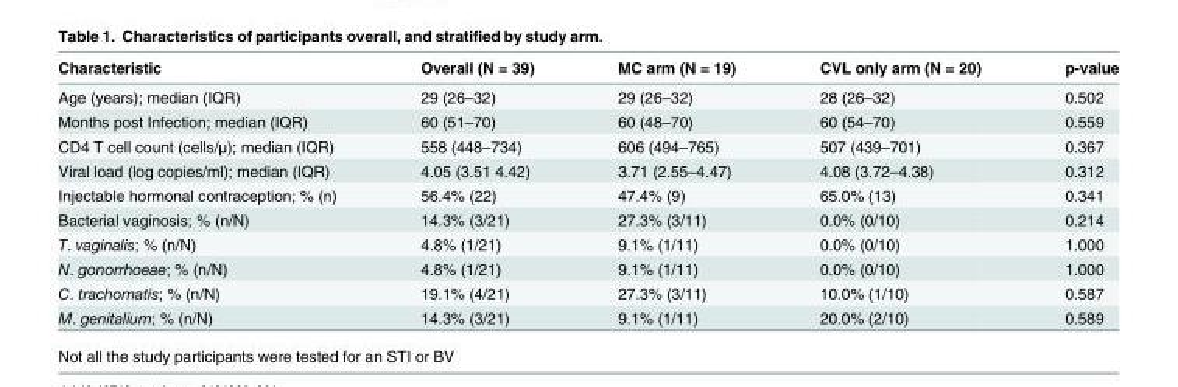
<table><thead><tr><td>Characteristic</td><td>Overall (N = 39)</td><td>MC arm (N = 19)</td><td>CVL only arm (N = 20)</td><td>p-value</td></tr></thead><tbody><tr><td>Age (years); median (IQR)</td><td>29 (26–32)</td><td>29 (26–32)</td><td>28 (26–32)</td><td>0.502</td></tr><tr><td>Months post Infection; median (IQR)</td><td>60 (51–70)</td><td>60 (48–70)</td><td>60 (54–70)</td><td>0.559</td></tr><tr><td>CD4 T cell count (cells/μ); median (IQR)</td><td>558 (448–734)</td><td>606 (494–765)</td><td>507 (439–701)</td><td>0.367</td></tr><tr><td>Viral load (log copies/ml); median (IQR)</td><td>4.05 (3.51 4.42)</td><td>3.71 (2.55–4.47)</td><td>4.08 (3.72–4.38)</td><td>0.312</td></tr><tr><td>Injectable hormonal contraception; % (n)</td><td>56.4% (22)</td><td>47.4% (9)</td><td>65.0% (13)</td><td>0.341</td></tr><tr><td>Bacterial vaginosis; % (n/N)</td><td>14.3% (3/21)</td><td>27.3% (3/11)</td><td>0.0% (0/10)</td><td>0.214</td></tr><tr><td>T. vaginalis; % (n/N)</td><td>4.8% (1/21)</td><td>9.1% (1/11)</td><td>0.0% (0/10)</td><td>1.000</td></tr><tr><td>N. gonorrhoeae; % (n/N)</td><td>4.8% (1/21)</td><td>9.1% (1/11)</td><td>0.0% (0/10)</td><td>1.000</td></tr><tr><td>C. trachomatis; % (n/N)</td><td>19.1% (4/21)</td><td>27.3% (3/11)</td><td>10.0% (1/10)</td><td>0.587</td></tr><tr><td>M. genitalium; % (n/N)</td><td>14.3% (3/21)</td><td>9.1% (1/11)</td><td>20.0% (2/10)</td><td>0.589</td></tr></tbody></table>